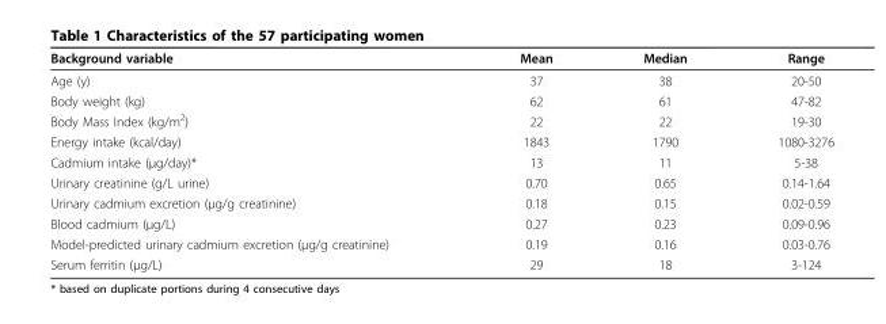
<table><thead><tr><td>Background variable</td><td>Mean</td><td>Median</td><td>Range</td></tr></thead><tbody><tr><td>Age (y)</td><td>37</td><td>38</td><td>20-50</td></tr><tr><td>Body weight (kg)</td><td>62</td><td>61</td><td>47-82</td></tr><tr><td>Body Mass Index (kg/m<sup>2</sup>)</td><td>22</td><td>22</td><td>19-30</td></tr><tr><td>Energy intake (kcal/day)</td><td>1843</td><td>1790</td><td>1080-3276</td></tr><tr><td>Cadmium intake (μg/day)*</td><td>13</td><td>11</td><td>5-38</td></tr><tr><td>Urinary creatinine (g/L urine)</td><td>0.70</td><td>0.65</td><td>0.14-1.64</td></tr><tr><td>Urinary cadmium excretion (μg/g creatinine)</td><td>0.18</td><td>0.15</td><td>0.02-0.59</td></tr><tr><td>Blood cadmium (μg/L)</td><td>0.27</td><td>0.23</td><td>0.09-0.96</td></tr><tr><td>Model-predicted urinary cadmium excretion (μg/g creatinine)</td><td>0.19</td><td>0.16</td><td>0.03-0.76</td></tr><tr><td>Serum ferritin (μg/L)</td><td>29</td><td>18</td><td>3-124</td></tr></tbody></table>